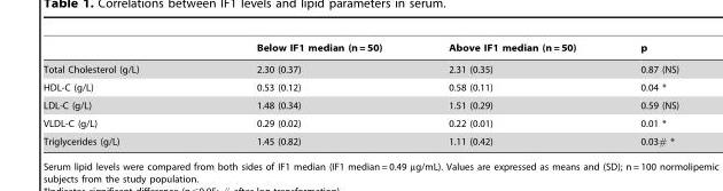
<table><thead><tr><td></td><td>Below IF1 median (n = 50)</td><td>Above IF1 median (n = 50)</td><td>p</td></tr></thead><tbody><tr><td>Total Cholesterol (g/L)</td><td>2.30 (0.37)</td><td>2.31 (0.35)</td><td>0.87 (NS)</td></tr><tr><td>HDL-C (g/L)</td><td>0.53 (0.12)</td><td>0.58 (0.11)</td><td>0.04 *</td></tr><tr><td>LDL-C (g/L)</td><td>1.48 (0.34)</td><td>1.51 (0.29)</td><td>0.59 (NS)</td></tr><tr><td>VLDL-C (g/L)</td><td>0.29 (0.02)</td><td>0.22 (0.01)</td><td>0.01 *</td></tr><tr><td>Triglycerides (g/L)</td><td>1.45 (0.82)</td><td>1.11 (0.42)</td><td>0.03# *</td></tr></tbody></table>